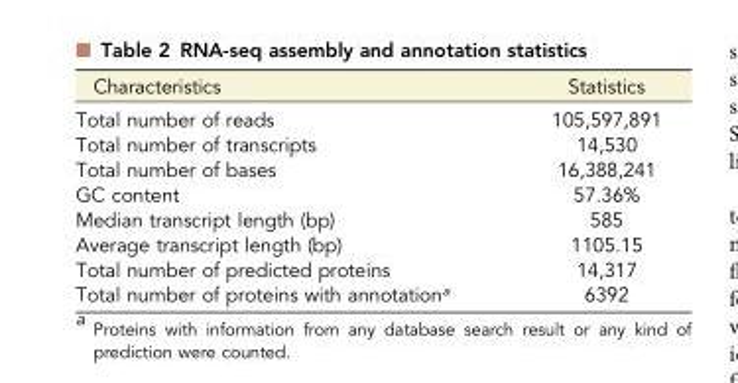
<table><thead><tr><td>Characteristics</td><td>Statistics</td></tr></thead><tbody><tr><td>Total number of reads Total number of transcripts</td><td>105,597,891 14,530</td></tr><tr><td>Total number of bases</td><td>16,388,241</td></tr><tr><td>GC content</td><td>57.36%</td></tr><tr><td>Median transcript length (bp)</td><td>585</td></tr><tr><td>Average transcript length (bp)</td><td>1105.15</td></tr><tr><td>Total number of predicted proteins</td><td>14,317</td></tr><tr><td>Total number of proteins with annotation<sup>a</sup></td><td>6392</td></tr></tbody></table>